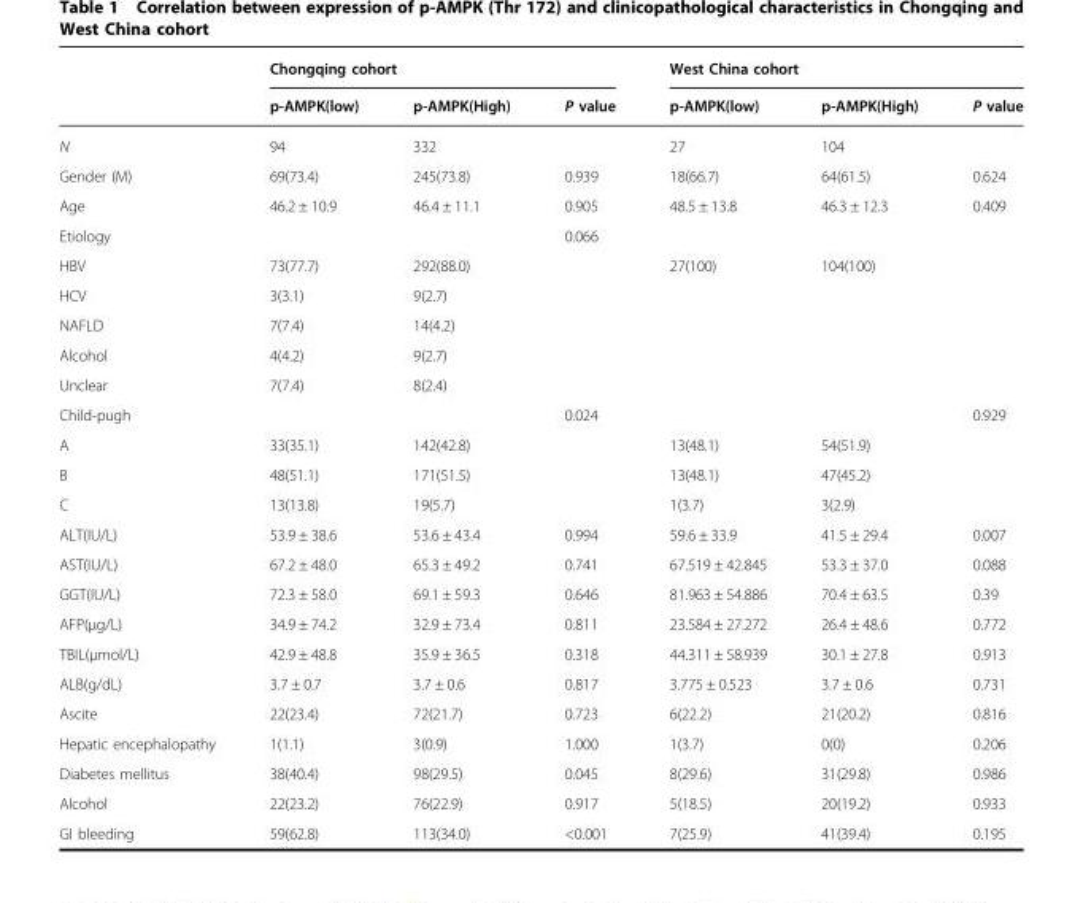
<table><thead><tr><td rowspan="2"></td><td colspan="3">Chongqing cohort</td><td colspan="3">West China cohort</td></tr><tr><td>p-AMPK(low)</td><td>p-AMPK(High)</td><td>P value</td><td>p-AMPK(low)</td><td>p-AMPK(High)</td><td>P value</td></tr></thead><tbody><tr><td>N</td><td>94</td><td>332</td><td></td><td>27</td><td>104</td><td></td></tr><tr><td>Gender (M)</td><td>69(73.4)</td><td>245(73.8)</td><td>0.939</td><td>18(66.7)</td><td>64(61.5)</td><td>0.624</td></tr><tr><td>Age</td><td>46.2 ± 10.9</td><td>46.4 ± 11.1</td><td>0.905</td><td>48.5 ± 13.8</td><td>46.3 ± 12.3</td><td>0.409</td></tr><tr><td>Etiology</td><td></td><td></td><td>0.066</td><td></td><td></td><td></td></tr><tr><td>HBV</td><td>73(77.7)</td><td>292(88.0)</td><td></td><td>27(100)</td><td>104(100)</td><td></td></tr><tr><td>HCV</td><td>3(3.1)</td><td>9(2.7)</td><td></td><td></td><td></td><td></td></tr><tr><td>NAFLD</td><td>7(7.4)</td><td>14(4.2)</td><td></td><td></td><td></td><td></td></tr><tr><td>Alcohol</td><td>4(4.2)</td><td>9(2.7)</td><td></td><td></td><td></td><td></td></tr><tr><td>Unclear</td><td>7(7.4)</td><td>8(2.4)</td><td></td><td></td><td></td><td></td></tr><tr><td>Child-pugh</td><td></td><td></td><td>0.024</td><td></td><td></td><td>0.929</td></tr><tr><td>A</td><td>33(35.1)</td><td>142(42.8)</td><td></td><td>13(48.1)</td><td>54(51.9)</td><td></td></tr><tr><td>B</td><td>48(51.1)</td><td>171(51.5)</td><td></td><td>13(48.1)</td><td>47(45.2)</td><td></td></tr><tr><td>C</td><td>13(13.8)</td><td>19(5.7)</td><td></td><td>1(3.7)</td><td>3(2.9)</td><td></td></tr><tr><td>ALT(IU/L)</td><td>53.9 ± 38.6</td><td>53.6 ± 43.4</td><td>0.994</td><td>59.6 ± 33.9</td><td>41.5 ± 29.4</td><td>0.007</td></tr><tr><td>AST(IU/L)</td><td>67.2 ± 48.0</td><td>65.3 ± 49.2</td><td>0.741</td><td>67.519 ± 42.845</td><td>53.3 ± 37.0</td><td>0.088</td></tr><tr><td>GGT(IU/L)</td><td>72.3 ± 58.0</td><td>69.1 ± 59.3</td><td>0.646</td><td>81.963 ± 54.886</td><td>70.4 ± 63.5</td><td>0.39</td></tr><tr><td>AFP(μg/L)</td><td>34.9 ± 74.2</td><td>32.9 ± 73.4</td><td>0.811</td><td>23.584 ± 27.272</td><td>26.4 ± 48.6</td><td>0.772</td></tr><tr><td>TBIL(μmol/L)</td><td>42.9 ± 48.8</td><td>35.9 ± 36.5</td><td>0.318</td><td>44.311 ± 58.939</td><td>30.1 ± 27.8</td><td>0.913</td></tr><tr><td>ALB(g/dL)</td><td>3.7 ± 0.7</td><td>3.7 ± 0.6</td><td>0.817</td><td>3.775 ± 0.523</td><td>3.7 ± 0.6</td><td>0.731</td></tr><tr><td>Ascite</td><td>22(23.4)</td><td>72(21.7)</td><td>0.723</td><td>6(22.2)</td><td>21(20.2)</td><td>0.816</td></tr><tr><td>Hepatic encephalopathy</td><td>1(1.1)</td><td>3(0.9)</td><td>1.000</td><td>1(3.7)</td><td>0(0)</td><td>0.206</td></tr><tr><td>Diabetes mellitus</td><td>38(40.4)</td><td>98(29.5)</td><td>0.045</td><td>8(29.6)</td><td>31(29.8)</td><td>0.986</td></tr><tr><td>Alcohol</td><td>22(23.2)</td><td>76(22.9)</td><td>0.917</td><td>5(18.5)</td><td>20(19.2)</td><td>0.933</td></tr><tr><td>GI bleeding</td><td>59(62.8)</td><td>113(34.0)</td><td>&lt;0.001</td><td>7(25.9)</td><td>41(39.4)</td><td>0.195</td></tr></tbody></table>